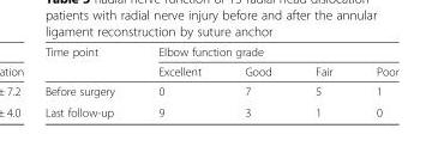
<table><thead><tr><td rowspan="2">Time point</td><td colspan="4">Elbow function grade</td></tr><tr><td>Excellent</td><td>Good</td><td>Fair</td><td>Poor</td></tr></thead><tbody><tr><td>Before surgery</td><td>0</td><td>7</td><td>5</td><td>1</td></tr><tr><td>Last follow-up</td><td>9</td><td>3</td><td>1</td><td>0</td></tr></tbody></table>